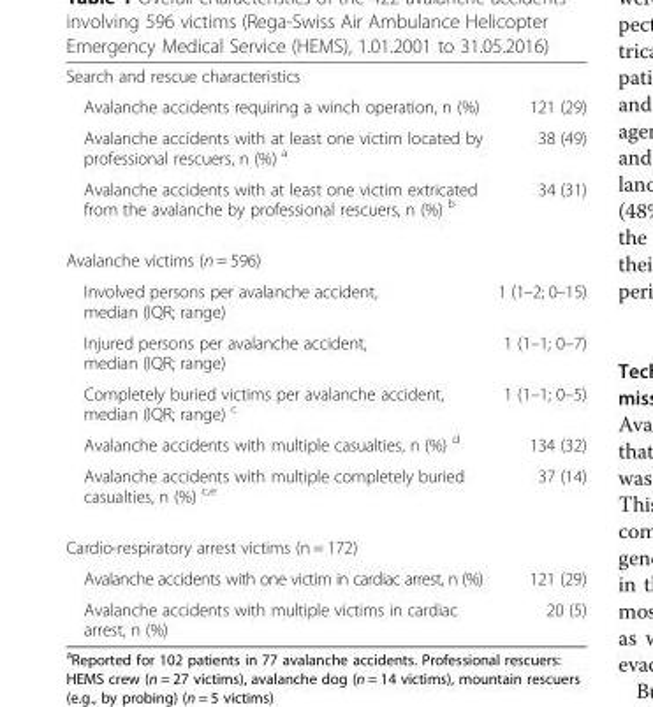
<table><tbody><tr><td colspan="2">Search and rescue characteristics</td></tr><tr><td>Avalanche accidents requiring a winch operation, n (%)</td><td>121 (29)</td></tr><tr><td>Avalanche accidents with at least one victim located by professional rescuers, n (%) <sup>a</sup></td><td>38 (49)</td></tr><tr><td>Avalanche accidents with at least one victim extricated from the avalanche by professional rescuers, n (%) <sup>b</sup></td><td>34 (31)</td></tr><tr><td colspan="2">Avalanche victims (n = 596)</td></tr><tr><td>Involved persons per avalanche accident, median (IQR; range)</td><td>1 (1–2; 0–15)</td></tr><tr><td>Injured persons per avalanche accident, median (IQR; range)</td><td>1 (1–1; 0–7)</td></tr><tr><td>Completely buried victims per avalanche accident, median (IQR; range) <sup>c</sup></td><td>1 (1–1; 0–5)</td></tr><tr><td>Avalanche accidents with multiple casualties, n (%) <sup>d</sup></td><td>134 (32)</td></tr><tr><td>Avalanche accidents with multiple completely buried casualties, n (%) <sup>c,e</sup></td><td>37 (14)</td></tr><tr><td colspan="2">Cardio-respiratory arrest victims (n = 172)</td></tr><tr><td>Avalanche accidents with one victim in cardiac arrest, n (%)</td><td>121 (29)</td></tr><tr><td>Avalanche accidents with multiple victims in cardiac arrest, n (%)</td><td>20 (5)</td></tr></tbody></table>